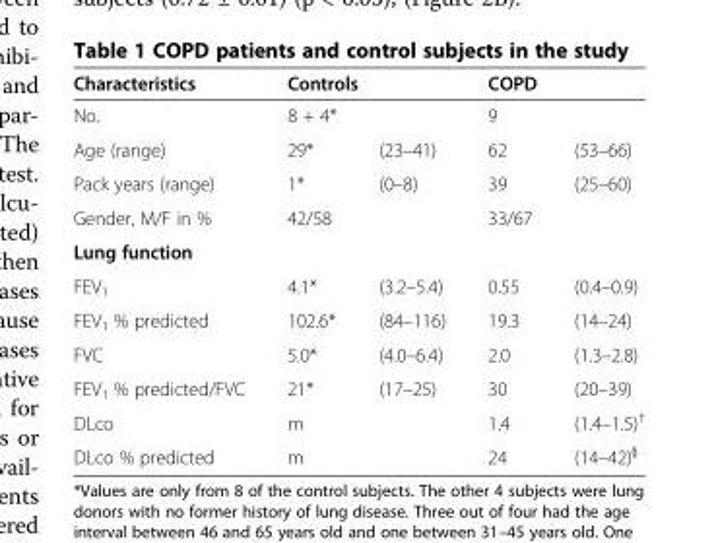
<table><thead><tr><td rowspan="2">Characteristics No.</td><td colspan="2">Controls</td><td colspan="2">COPD</td></tr><tr><td>8 + 4*</td><td></td><td>9</td><td></td></tr></thead><tbody><tr><td>Age (range)</td><td>29*</td><td>(23–41)</td><td>62</td><td>(53–66)</td></tr><tr><td>Pack years (range)</td><td>1*</td><td>(0–8)</td><td>39</td><td>(25–60)</td></tr><tr><td>Gender, M/F in %</td><td>42/58</td><td></td><td>33/67</td><td></td></tr><tr><td colspan="5">Lung function</td></tr><tr><td>FEV<sub>1</sub></td><td>4.1*</td><td>(3.2–5.4)</td><td>0.55</td><td>(0.4–0.9)</td></tr><tr><td>FEV<sub>1</sub> % predicted</td><td>102.6*</td><td>(84–116)</td><td>19.3</td><td>(14–24)</td></tr><tr><td>FVC</td><td>5.0*</td><td>(4.0–6.4)</td><td>2.0</td><td>(1.3–2.8)</td></tr><tr><td>FEV<sub>1</sub> % predicted/FVC</td><td>21*</td><td>(17–25)</td><td>30</td><td>(20–39)</td></tr><tr><td>DLco</td><td>m</td><td></td><td>1.4</td><td>(1.4–1.5)<sup>†</sup></td></tr><tr><td>DLco % predicted</td><td>m</td><td></td><td>24</td><td>(14–42)<sup>§</sup></td></tr></tbody></table>